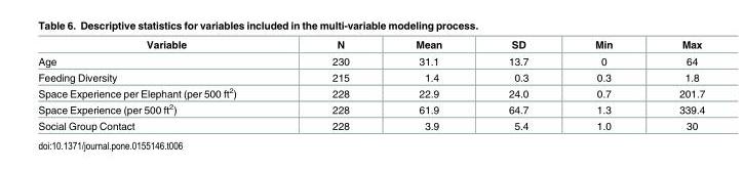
<table><thead><tr><td>Variable</td><td>N</td><td>Mean</td><td>SD</td><td>Min</td><td>Max</td></tr></thead><tbody><tr><td>Age</td><td>230</td><td>31.1</td><td>13.7</td><td>0</td><td>64</td></tr><tr><td>Feeding Diversity</td><td>215</td><td>1.4</td><td>0.3</td><td>0.3</td><td>1.8</td></tr><tr><td>Space Experience per Elephant (per 500 ft<sup>2</sup>)</td><td>228</td><td>22.9</td><td>24.0</td><td>0.7</td><td>201.7</td></tr><tr><td>Space Experience (per 500 ft<sup>2</sup>)</td><td>228</td><td>61.9</td><td>64.7</td><td>1.3</td><td>339.4</td></tr><tr><td>Social Group Contact</td><td>228</td><td>3.9</td><td>5.4</td><td>1.0</td><td>30</td></tr></tbody></table>